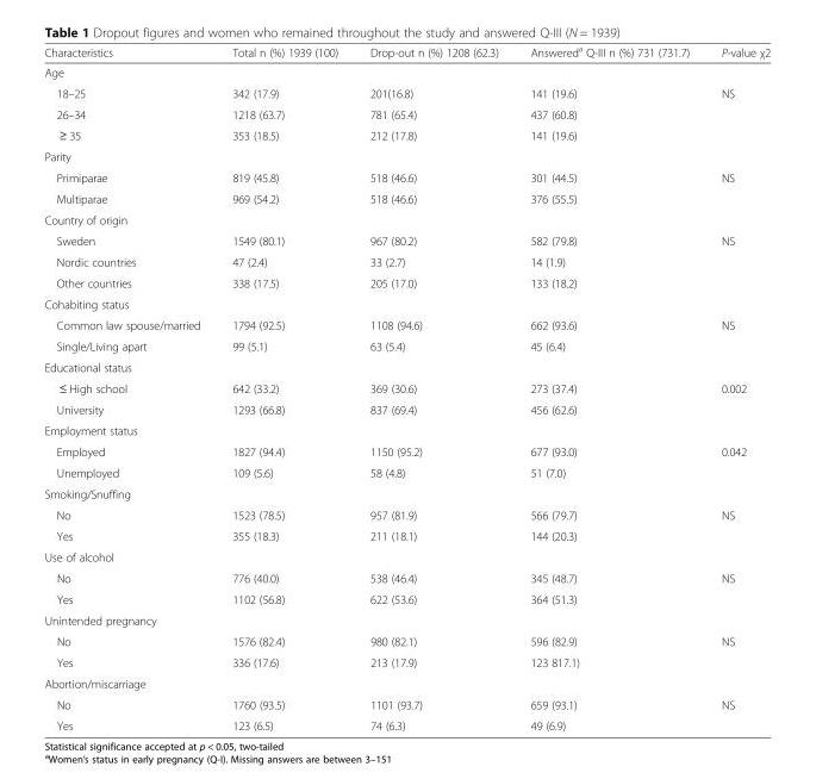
<table><thead><tr><td>Characteristics</td><td>Total n (%) 1939 (100)</td><td>Drop-out n (%) 1208 (62.3)</td><td>Answered<sup>a</sup> Q-III n (%) 731 (731.7)</td><td>P-value χ2</td></tr></thead><tbody><tr><td colspan="5">Age</td></tr><tr><td>18–25</td><td>342 (17.9)</td><td>201(16.8)</td><td>141 (19.6)</td><td rowspan="3">NS</td></tr><tr><td>26–34</td><td>1218 (63.7)</td><td>781 (65.4)</td><td>437 (60.8)</td></tr><tr><td>≥ 35</td><td>353 (18.5)</td><td>212 (17.8)</td><td>141 (19.6)</td></tr><tr><td colspan="5">Parity</td></tr><tr><td>Primiparae</td><td>819 (45.8)</td><td>518 (46.6)</td><td>301 (44.5)</td><td rowspan="2">NS</td></tr><tr><td>Multiparae</td><td>969 (54.2)</td><td>518 (46.6)</td><td>376 (55.5)</td></tr><tr><td colspan="5">Country of origin</td></tr><tr><td>Sweden</td><td>1549 (80.1)</td><td>967 (80.2)</td><td>582 (79.8)</td><td rowspan="3">NS</td></tr><tr><td>Nordic countries</td><td>47 (2.4)</td><td>33 (2.7)</td><td>14 (1.9)</td></tr><tr><td>Other countries</td><td>338 (17.5)</td><td>205 (17.0)</td><td>133 (18.2)</td></tr><tr><td colspan="5">Cohabiting status</td></tr><tr><td>Common law spouse/married</td><td>1794 (92.5)</td><td>1108 (94.6)</td><td>662 (93.6)</td><td rowspan="2">NS</td></tr><tr><td>Single/Living apart</td><td>99 (5.1)</td><td>63 (5.4)</td><td>45 (6.4)</td></tr><tr><td colspan="5">Educational status</td></tr><tr><td>≤ High school</td><td>642 (33.2)</td><td>369 (30.6)</td><td>273 (37.4)</td><td rowspan="2">0.002</td></tr><tr><td>University</td><td>1293 (66.8)</td><td>837 (69.4)</td><td>456 (62.6)</td></tr><tr><td colspan="5">Employment status</td></tr><tr><td>Employed</td><td>1827 (94.4)</td><td>1150 (95.2)</td><td>677 (93.0)</td><td rowspan="2">0.042</td></tr><tr><td>Unemployed</td><td>109 (5.6)</td><td>58 (4.8)</td><td>51 (7.0)</td></tr><tr><td colspan="5">Smoking/Snuffing</td></tr><tr><td>No</td><td>1523 (78.5)</td><td>957 (81.9)</td><td>566 (79.7)</td><td rowspan="2">NS</td></tr><tr><td>Yes</td><td>355 (18.3)</td><td>211 (18.1)</td><td>144 (20.3)</td></tr><tr><td colspan="5">Use of alcohol</td></tr><tr><td>No</td><td>776 (40.0)</td><td>538 (46.4)</td><td>345 (48.7)</td><td rowspan="2">NS</td></tr><tr><td>Yes</td><td>1102 (56.8)</td><td>622 (53.6)</td><td>364 (51.3)</td></tr><tr><td colspan="5">Unintended pregnancy</td></tr><tr><td>No</td><td>1576 (82.4)</td><td>980 (82.1)</td><td>596 (82.9)</td><td rowspan="2">NS</td></tr><tr><td>Yes</td><td>336 (17.6)</td><td>213 (17.9)</td><td>123 817.1)</td></tr><tr><td colspan="5">Abortion/miscarriage</td></tr><tr><td>No</td><td>1760 (93.5)</td><td>1101 (93.7)</td><td>659 (93.1)</td><td rowspan="2">NS</td></tr><tr><td>Yes</td><td>123 (6.5)</td><td>74 (6.3)</td><td>49 (6.9)</td></tr></tbody></table>